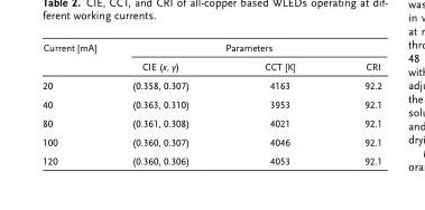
<table><thead><tr><td rowspan="2">Current [mA]</td><td colspan="3">Parameters</td></tr><tr><td>CIE (x, y)</td><td>CCT [K]</td><td>CRI</td></tr></thead><tbody><tr><td>20</td><td>(0.358, 0.307)</td><td>4163</td><td>92.2</td></tr><tr><td>40</td><td>(0.363, 0.310)</td><td>3953</td><td>92.1</td></tr><tr><td>80</td><td>(0.361, 0.308)</td><td>4021</td><td>92.1</td></tr><tr><td>100</td><td>(0.360, 0.307)</td><td>4046</td><td>92.1</td></tr><tr><td>120</td><td>(0.360, 0.306)</td><td>4053</td><td>92.1</td></tr></tbody></table>